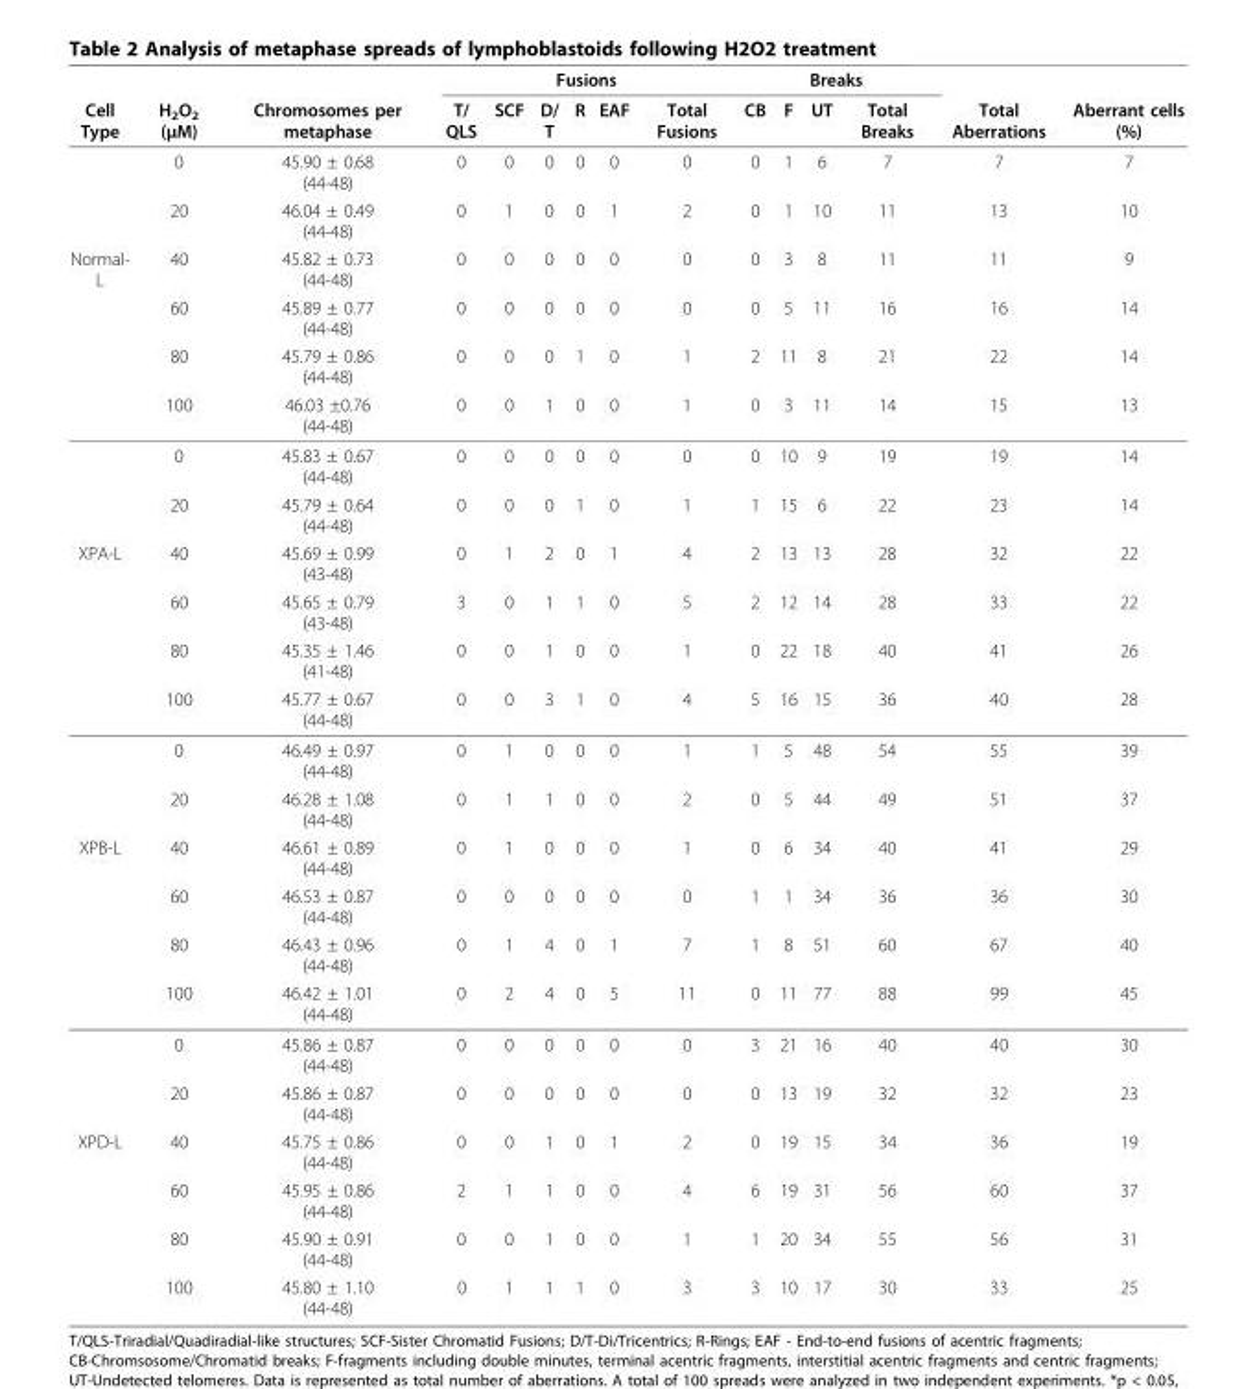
<table><thead><tr><td rowspan="2">Cell Type</td><td rowspan="2">H<sub>2</sub>O<sub>2</sub> (μM)</td><td rowspan="2">Chromosomes per metaphase</td><td colspan="6">Fusions</td><td colspan="4">Breaks</td><td rowspan="2">Total Aberrations</td><td rowspan="2">Aberrant cells (%)</td></tr><tr><td>T/ QLS</td><td>SCF</td><td>D/ T</td><td>R</td><td>EAF</td><td>Total Fusions</td><td>CB</td><td>F</td><td>UT</td><td>Total Breaks</td></tr></thead><tbody><tr><td></td><td>0</td><td>45.90 ± 0.68 (44-48)</td><td>0</td><td>0</td><td>0</td><td>0</td><td>0</td><td>0</td><td>0</td><td>1</td><td>6</td><td>7</td><td>7</td><td>7</td></tr><tr><td></td><td>20</td><td>46.04 ± 0.49 (44-48)</td><td>0</td><td>1</td><td>0</td><td>0</td><td>1</td><td>2</td><td>0</td><td>1</td><td>10</td><td>11</td><td>13</td><td>10</td></tr><tr><td rowspan="6">Normal- L</td><td>40</td><td>45.82 ± 0.73 (44-48)</td><td>0</td><td>0</td><td>0</td><td>0</td><td>0</td><td>0</td><td>0</td><td>3</td><td>8</td><td>11</td><td>11</td><td>9</td></tr><tr><td>60</td><td>45.89 ± 0.77 (44-48)</td><td>0</td><td>0</td><td>0</td><td>0</td><td>0</td><td>0</td><td>0</td><td>5</td><td>11</td><td>16</td><td>16</td><td>14</td></tr><tr><td>80</td><td>45.79 ± 0.86 (44-48)</td><td>0</td><td>0</td><td>0</td><td>1</td><td>0</td><td>1</td><td>2</td><td>11</td><td>8</td><td>21</td><td>22</td><td>14</td></tr><tr><td>100</td><td>46.03 ±0.76 (44-48)</td><td>0</td><td>0</td><td>1</td><td>0</td><td>0</td><td>1</td><td>0</td><td>3</td><td>11</td><td>14</td><td>15</td><td>13</td></tr><tr><td>0</td><td>45.83 ± 0.67 (44-48)</td><td>0</td><td>0</td><td>0</td><td>0</td><td>0</td><td>0</td><td>0</td><td>10</td><td>9</td><td>19</td><td>19</td><td>14</td></tr><tr><td>20</td><td>45.79 ± 0.64 (44-48)</td><td>0</td><td>0</td><td>0</td><td>1</td><td>0</td><td>1</td><td>1</td><td>15</td><td>6</td><td>22</td><td>23</td><td>14</td></tr><tr><td rowspan="6">XPA-L</td><td>40</td><td>45.69 ± 0.99 (43-48)</td><td>0</td><td>1</td><td>2</td><td>0</td><td>1</td><td>4</td><td>2</td><td>13</td><td>13</td><td>28</td><td>32</td><td>22</td></tr><tr><td>60</td><td>45.65 ± 0.79 (43-48)</td><td>3</td><td>0</td><td>1</td><td>1</td><td>0</td><td>5</td><td>2</td><td>12</td><td>14</td><td>28</td><td>33</td><td>22</td></tr><tr><td>80</td><td>45.35 ± 1.46 (41-48)</td><td>0</td><td>0</td><td>1</td><td>0</td><td>0</td><td>1</td><td>0</td><td>22</td><td>18</td><td>40</td><td>41</td><td>26</td></tr><tr><td>100</td><td>45.77 ± 0.67 (44-48)</td><td>0</td><td>0</td><td>3</td><td>1</td><td>0</td><td>4</td><td>5</td><td>16</td><td>15</td><td>36</td><td>40</td><td>28</td></tr><tr><td>0</td><td>46.49 ± 0.97 (44-48)</td><td>0</td><td>1</td><td>0</td><td>0</td><td>0</td><td>1</td><td>1</td><td>5</td><td>48</td><td>54</td><td>55</td><td>39</td></tr><tr><td>20</td><td>46.28 ± 1.08 (44-48)</td><td>0</td><td>1</td><td>1</td><td>0</td><td>0</td><td>2</td><td>0</td><td>5</td><td>44</td><td>49</td><td>51</td><td>37</td></tr><tr><td rowspan="6">XPB-L</td><td>40</td><td>46.61 ± 0.89 (44-48)</td><td>0</td><td>1</td><td>0</td><td>0</td><td>0</td><td>1</td><td>0</td><td>6</td><td>34</td><td>40</td><td>41</td><td>29</td></tr><tr><td>60</td><td>46.53 ± 0.87 (44-48)</td><td>0</td><td>0</td><td>0</td><td>0</td><td>0</td><td>0</td><td>1</td><td>1</td><td>34</td><td>36</td><td>36</td><td>30</td></tr><tr><td>80</td><td>46.43 ± 0.96 (44-48)</td><td>0</td><td>1</td><td>4</td><td>0</td><td>1</td><td>7</td><td>1</td><td>8</td><td>51</td><td>60</td><td>67</td><td>40</td></tr><tr><td>100</td><td>46.42 ± 1.01 (44-48)</td><td>0</td><td>2</td><td>4</td><td>0</td><td>5</td><td>11</td><td>0</td><td>11</td><td>77</td><td>88</td><td>99</td><td>45</td></tr><tr><td>0</td><td>45.86 ± 0.87 (44-48)</td><td>0</td><td>0</td><td>0</td><td>0</td><td>0</td><td>0</td><td>3</td><td>21</td><td>16</td><td>40</td><td>40</td><td>30</td></tr><tr><td>20</td><td>45.86 ± 0.87 (44-48)</td><td>0</td><td>0</td><td>0</td><td>0</td><td>0</td><td>0</td><td>0</td><td>13</td><td>19</td><td>32</td><td>32</td><td>23</td></tr><tr><td rowspan="4">XPD-L</td><td>40</td><td>45.75 ± 0.86 (44-48)</td><td>0</td><td>0</td><td>1</td><td>0</td><td>1</td><td>2</td><td>0</td><td>19</td><td>15</td><td>34</td><td>36</td><td>19</td></tr><tr><td>60</td><td>45.95 ± 0.86 (44-48)</td><td>2</td><td>1</td><td>1</td><td>0</td><td>0</td><td>4</td><td>6</td><td>19</td><td>31</td><td>56</td><td>60</td><td>37</td></tr><tr><td>80</td><td>45.90 ± 0.91 (44-48)</td><td>0</td><td>0</td><td>1</td><td>0</td><td>0</td><td>1</td><td>1</td><td>20</td><td>34</td><td>55</td><td>56</td><td>31</td></tr><tr><td>100</td><td>45.80 ± 1.10 (44-48)</td><td>0</td><td>1</td><td>1</td><td>1</td><td>0</td><td>3</td><td>3</td><td>10</td><td>17</td><td>30</td><td>33</td><td>25</td></tr></tbody></table>